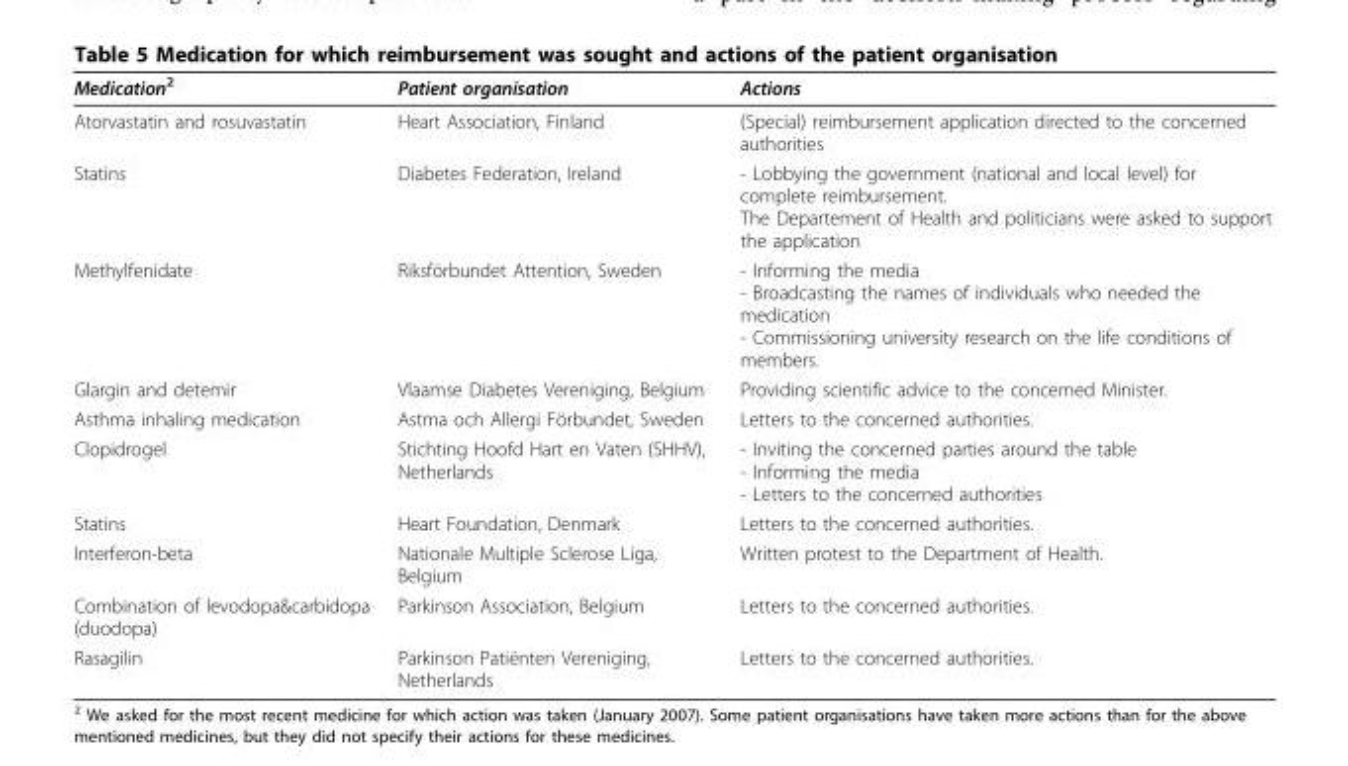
<table><thead><tr><td>Medication<sup>2</sup></td><td>Patient organisation</td><td>Actions</td></tr></thead><tbody><tr><td>Atorvastatin and rosuvastatin</td><td>Heart Association, Finland</td><td>(Special) reimbursement application directed to the concerned authorities</td></tr><tr><td>Statins</td><td>Diabetes Federation, Ireland</td><td>- Lobbying the government (national and local level) for complete reimbursement. The Departement of Health and politicians were asked to support the application</td></tr><tr><td>Methylfenidate</td><td>Riksförbundet Attention, Sweden</td><td>- Informing the media - Broadcasting the names of individuals who needed the medication - Commissioning university research on the life conditions of members.</td></tr><tr><td>Glargin and detemir</td><td>Vlaamse Diabetes Vereniging, Belgium</td><td>Providing scientific advice to the concerned Minister.</td></tr><tr><td>Asthma inhaling medication</td><td>Astma och Allergi Förbundet, Sweden</td><td>Letters to the concerned authorities.</td></tr><tr><td>Clopidrogel</td><td>Stichting Hoofd Hart en Vaten (SHHV), Netherlands</td><td>- Inviting the concerned parties around the table - Informing the media - Letters to the concerned authorities</td></tr><tr><td>Statins</td><td>Heart Foundation, Denmark</td><td>Letters to the concerned authorities.</td></tr><tr><td>Interferon-beta</td><td>Nationale Multiple Sclerose Liga, Belgium</td><td>Written protest to the Department of Health.</td></tr><tr><td>Combination of levodopa&amp;carbidopa (duodopa)</td><td>Parkinson Association, Belgium</td><td>Letters to the concerned authorities.</td></tr><tr><td>Rasagilin</td><td>Parkinson Patiënten Vereniging, Netherlands</td><td>Letters to the concerned authorities.</td></tr></tbody></table>